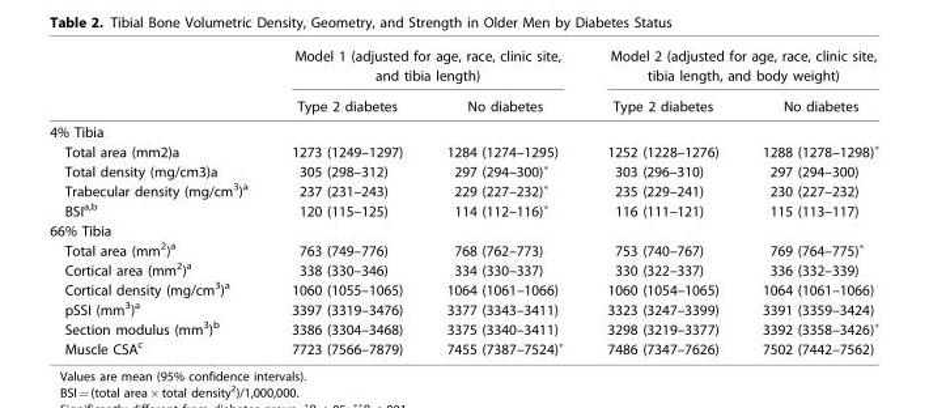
<table><thead><tr><td rowspan="2"></td><td colspan="2">Model 1 (adjusted for age, race, clinic site, and tibia length)</td><td colspan="2">Model 2 (adjusted for age, race, clinic site, tibia length, and body weight)</td></tr><tr><td>Type 2 diabetes</td><td>No diabetes</td><td>Type 2 diabetes</td><td>No diabetes</td></tr></thead><tbody><tr><td colspan="5">4% Tibia</td></tr><tr><td>Total area (mm2)a</td><td>1273 (1249–1297)</td><td>1284 (1274–1295)</td><td>1252 (1228–1276)</td><td>1288 (1278–1298)*</td></tr><tr><td>Total density (mg/cm3)<sup>a</sup></td><td>305 (298–312)</td><td>297 (294–300)*</td><td>303 (296–310)</td><td>297 (294–300)</td></tr><tr><td>Trabecular density (mg/cm<sup>3</sup>)<sup>a</sup></td><td>237 (231–243)</td><td>229 (227–232)*</td><td>235 (229–241)</td><td>230 (227–232)</td></tr><tr><td>BSIa,b</td><td>120 (115–125)</td><td>114 (112–116)*</td><td>116 (111–121)</td><td>115 (113–117)</td></tr><tr><td colspan="5">66% Tibia</td></tr><tr><td>Total area (mm<sup>2</sup>)<sup>a</sup></td><td>763 (749–776)</td><td>768 (762–773)</td><td>753 (740–767)</td><td>769 (764–775)*</td></tr><tr><td>Cortical area (mm<sup>2</sup>)<sup>a</sup></td><td>338 (330–346)</td><td>334 (330–337)</td><td>330 (322–337)</td><td>336 (332–339)</td></tr><tr><td>Cortical density (mg/cm<sup>3</sup>)<sup>a</sup></td><td>1060 (1055–1065)</td><td>1064 (1061–1066)</td><td>1060 (1054–1065)</td><td>1064 (1061–1066)</td></tr><tr><td>pSSI (mm<sup>3</sup>)<sup>a</sup></td><td>3397 (3319–3476)</td><td>3377 (3343–3411)</td><td>3323 (3247–3399)</td><td>3391 (3359–3424)</td></tr><tr><td>Section modulus (mm<sup>3</sup>)<sup>b</sup></td><td>3386 (3304–3468)</td><td>3375 (3340–3411)</td><td>3298 (3219–3377)</td><td>3392 (3358–3426)*</td></tr><tr><td>Muscle CSA<sup>c</sup></td><td>7723 (7566–7879)</td><td>7455 (7387–7524)*</td><td>7486 (7347–7626)</td><td>7502 (7442–7562)</td></tr></tbody></table>